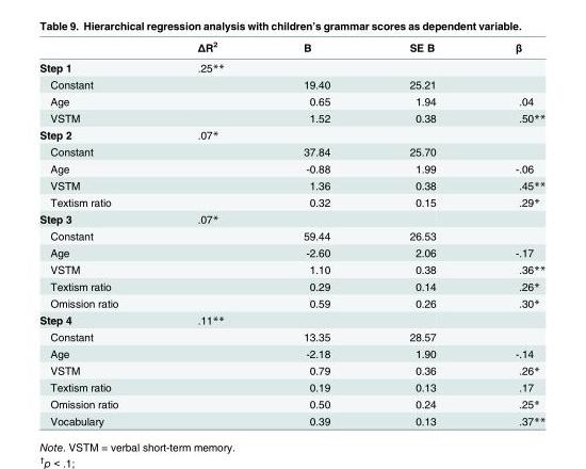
<table><thead><tr><td></td><td>ΔR<sup>2</sup></td><td>B</td><td>SE B</td><td>β</td></tr></thead><tbody><tr><td>Step 1</td><td>.25**</td><td></td><td></td><td></td></tr><tr><td>Constant</td><td></td><td>19.40</td><td>25.21</td><td></td></tr><tr><td>Age</td><td></td><td>0.65</td><td>1.94</td><td>.04</td></tr><tr><td>VSTM</td><td></td><td>1.52</td><td>0.38</td><td>.50**</td></tr><tr><td>Step 2</td><td>.07*</td><td></td><td></td><td></td></tr><tr><td>Constant</td><td></td><td>37.84</td><td>25.70</td><td></td></tr><tr><td>Age</td><td></td><td>-0.88</td><td>1.99</td><td>-.06</td></tr><tr><td>VSTM</td><td></td><td>1.36</td><td>0.38</td><td>.45**</td></tr><tr><td>Textism ratio</td><td></td><td>0.32</td><td>0.15</td><td>.29*</td></tr><tr><td>Step 3</td><td>.07*</td><td></td><td></td><td></td></tr><tr><td>Constant</td><td></td><td>59.44</td><td>26.53</td><td></td></tr><tr><td>Age</td><td></td><td>-2.60</td><td>2.06</td><td>-.17</td></tr><tr><td>VSTM</td><td></td><td>1.10</td><td>0.38</td><td>.36**</td></tr><tr><td>Textism ratio</td><td></td><td>0.29</td><td>0.14</td><td>.26*</td></tr><tr><td>Omission ratio</td><td></td><td>0.59</td><td>0.26</td><td>.30*</td></tr><tr><td>Step 4</td><td>.11**</td><td></td><td></td><td></td></tr><tr><td>Constant</td><td></td><td>13.35</td><td>28.57</td><td></td></tr><tr><td>Age</td><td></td><td>-2.18</td><td>1.90</td><td>-.14</td></tr><tr><td>VSTM</td><td></td><td>0.79</td><td>0.36</td><td>.26*</td></tr><tr><td>Textism ratio</td><td></td><td>0.19</td><td>0.13</td><td>.17</td></tr><tr><td>Omission ratio</td><td></td><td>0.50</td><td>0.24</td><td>.25*</td></tr><tr><td>Vocabulary</td><td></td><td>0.39</td><td>0.13</td><td>.37**</td></tr></tbody></table>